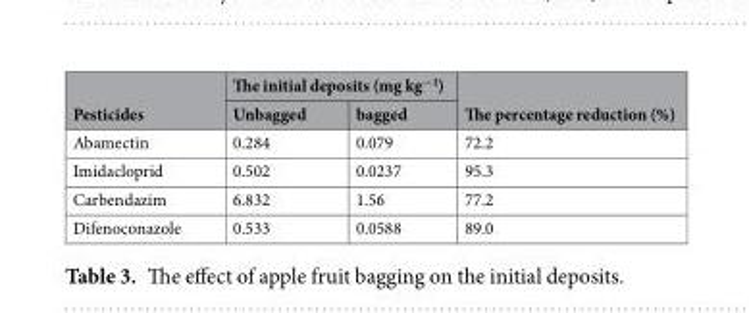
<table><thead><tr><td rowspan="2">Pesticides</td><td colspan="2">The initial deposits (mg kg<sup>−1</sup>)</td><td rowspan="2">The percentage reduction (%)</td></tr><tr><td>Unbagged</td><td>bagged</td></tr></thead><tbody><tr><td>Abamectin</td><td>0.284</td><td>0.079</td><td>72.2</td></tr><tr><td>Imidacloprid</td><td>0.502</td><td>0.0237</td><td>95.3</td></tr><tr><td>Carbendazim</td><td>6.832</td><td>1.56</td><td>77.2</td></tr><tr><td>Difenoconazole</td><td>0.533</td><td>0.0588</td><td>89.0</td></tr></tbody></table>